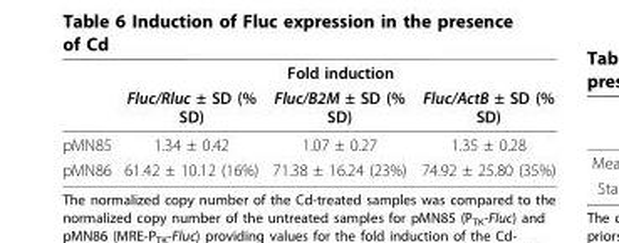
<table><thead><tr><td rowspan="2"></td><td colspan="3">Fold induction</td></tr><tr><td>Fluc/Rluc ± SD (% SD)</td><td>Fluc/B2M ± SD (% SD)</td><td>Fluc/ActB ± SD (% SD)</td></tr></thead><tbody><tr><td>pMN85</td><td>1.34 ± 0.42</td><td>1.07 ± 0.27</td><td>1.35 ± 0.28</td></tr><tr><td>pMN86</td><td>61.42 ± 10.12 (16%)</td><td>71.38 ± 16.24 (23%)</td><td>74.92 ± 25.80 (35%)</td></tr></tbody></table>